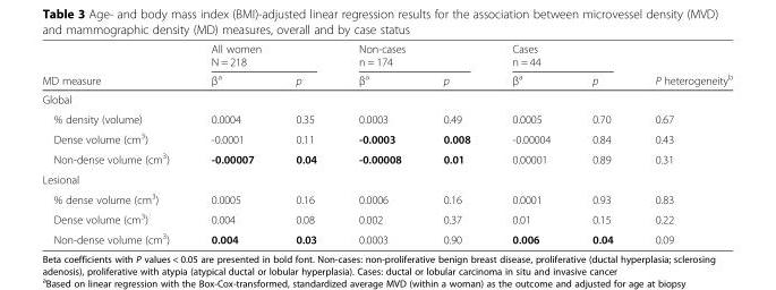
<table><thead><tr><td rowspan="3">MD measure</td><td rowspan="2" colspan="2">All women N = 218</td><td rowspan="2" colspan="2">Non-cases n = 174</td><td rowspan="2" colspan="2">Cases n = 44</td><td rowspan="3">P heterogeneity<sup>b</sup></td></tr><tr></tr><tr><td>β<sup>a</sup></td><td>p</td><td>β<sup>a</sup></td><td>p</td><td>β<sup>a</sup></td><td>p</td></tr></thead><tbody><tr><td colspan="8">Global</td></tr><tr><td>% density (volume)</td><td>0.0004</td><td>0.35</td><td>0.0003</td><td>0.49</td><td>0.0005</td><td>0.70</td><td>0.67</td></tr><tr><td>Dense volume (cm<sup>3</sup>)</td><td>-0.0001</td><td>0.11</td><td>-0.0003</td><td>0.008</td><td>-0.00004</td><td>0.84</td><td>0.43</td></tr><tr><td>Non-dense volume (cm<sup>3</sup>)</td><td>-0.00007</td><td>0.04</td><td>-0.00008</td><td>0.01</td><td>0.00001</td><td>0.89</td><td>0.31</td></tr><tr><td colspan="8">Lesional</td></tr><tr><td>% dense volume (cm<sup>3</sup>)</td><td>0.0005</td><td>0.16</td><td>0.0006</td><td>0.16</td><td>0.0001</td><td>0.93</td><td>0.83</td></tr><tr><td>Dense volume (cm<sup>3</sup>)</td><td>0.004</td><td>0.08</td><td>0.002</td><td>0.37</td><td>0.01</td><td>0.15</td><td>0.22</td></tr><tr><td>Non-dense volume (cm<sup>3</sup>)</td><td>0.004</td><td>0.03</td><td>0.0003</td><td>0.90</td><td>0.006</td><td>0.04</td><td>0.09</td></tr></tbody></table>